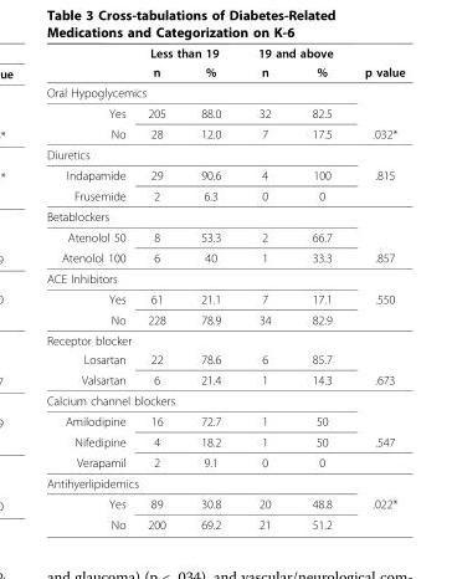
<table><thead><tr><td rowspan="2"></td><td colspan="2">Less than 19</td><td colspan="2">19 and above</td><td rowspan="2">p value</td></tr><tr><td>n</td><td>%</td><td>n</td><td>%</td></tr></thead><tbody><tr><td colspan="6">Oral Hypoglycemics</td></tr><tr><td>Yes</td><td>205</td><td>88.0</td><td>32</td><td>82.5</td><td></td></tr><tr><td>No</td><td>28</td><td>12.0</td><td>7</td><td>17.5</td><td>.032*</td></tr><tr><td colspan="6">Diuretics</td></tr><tr><td>Indapamide</td><td>29</td><td>90.6</td><td>4</td><td>100</td><td>.815</td></tr><tr><td>Frusemide</td><td>2</td><td>6.3</td><td>0</td><td>0</td><td></td></tr><tr><td colspan="6">Betablockers</td></tr><tr><td>Atenolol 50</td><td>8</td><td>53.3</td><td>2</td><td>66.7</td><td></td></tr><tr><td>Atenolol 100</td><td>6</td><td>40</td><td>1</td><td>33.3</td><td>.857</td></tr><tr><td colspan="6">ACE Inhibitors</td></tr><tr><td>Yes</td><td>61</td><td>21.1</td><td>7</td><td>17.1</td><td>.550</td></tr><tr><td>No</td><td>228</td><td>78.9</td><td>34</td><td>82.9</td><td></td></tr><tr><td colspan="6">Receptor blocker</td></tr><tr><td>Losartan</td><td>22</td><td>78.6</td><td>6</td><td>85.7</td><td></td></tr><tr><td>Valsartan</td><td>6</td><td>21.4</td><td>1</td><td>14.3</td><td>.673</td></tr><tr><td colspan="6">Calcium channel blockers</td></tr><tr><td>Amilodipine</td><td>16</td><td>72.7</td><td>1</td><td>50</td><td></td></tr><tr><td>Nifedipine</td><td>4</td><td>18.2</td><td>1</td><td>50</td><td>.547</td></tr><tr><td>Verapamil</td><td>2</td><td>9.1</td><td>0</td><td>0</td><td></td></tr><tr><td colspan="6">Antihyerlipidemics</td></tr><tr><td>Yes</td><td>89</td><td>30.8</td><td>20</td><td>48.8</td><td>.022*</td></tr><tr><td>No</td><td>200</td><td>69.2</td><td>21</td><td>51.2</td><td></td></tr></tbody></table>